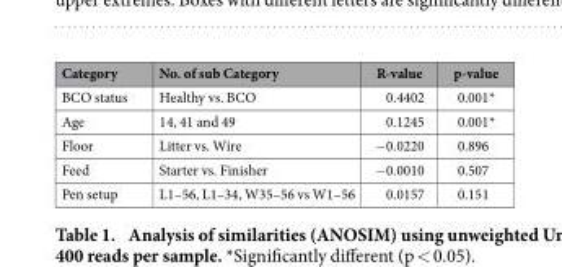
<table><thead><tr><td>Category</td><td>No. of sub Category</td><td>R-value</td><td>p-value</td></tr></thead><tbody><tr><td>BCO status</td><td>Healthy vs. BCO</td><td>0.4402</td><td>0.001*</td></tr><tr><td>Age</td><td>14, 41 and 49</td><td>0.1245</td><td>0.001*</td></tr><tr><td>Floor</td><td>Litter vs. Wire</td><td>−0.0220</td><td>0.896</td></tr><tr><td>Feed</td><td>Starter vs. Finisher</td><td>−0.0010</td><td>0.507</td></tr><tr><td>Pen setup</td><td>L1–56, L1–34, W35–56 vs W1–56</td><td>0.0157</td><td>0.151</td></tr></tbody></table>